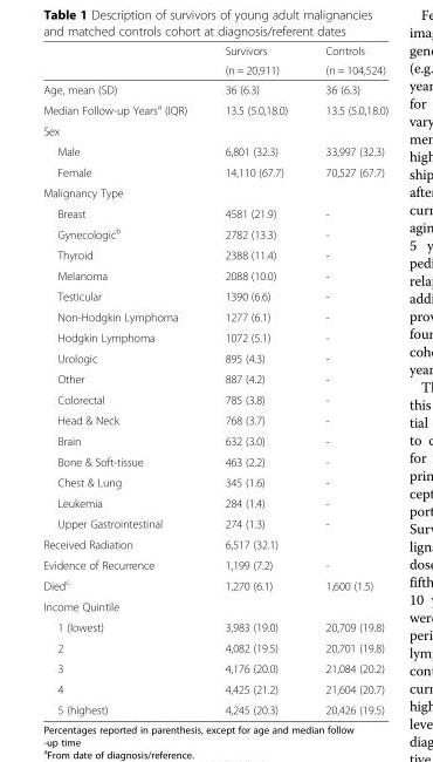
<table><thead><tr><td rowspan="2"></td><td rowspan="2">Survivors (n = 20,911)</td><td rowspan="2">Controls (n = 104,524)</td></tr><tr></tr></thead><tbody><tr><td>Age, mean (SD)</td><td>36 (6.3)</td><td>36 (6.3)</td></tr><tr><td>Median Follow-up Years<sup>a</sup> (IQR)</td><td>13.5 (5.0,18.0)</td><td>13.5 (5.0,18.0)</td></tr><tr><td colspan="3">Sex</td></tr><tr><td>Male</td><td>6,801 (32.3)</td><td>33,997 (32.3)</td></tr><tr><td>Female</td><td>14,110 (67.7)</td><td>70,527 (67.7)</td></tr><tr><td colspan="3">Malignancy Type</td></tr><tr><td>Breast</td><td>4581 (21.9)</td><td>-</td></tr><tr><td>Gynecologic<sup>b</sup></td><td>2782 (13.3)</td><td>-</td></tr><tr><td>Thyroid</td><td>2388 (11.4)</td><td>-</td></tr><tr><td>Melanoma</td><td>2088 (10.0)</td><td>-</td></tr><tr><td>Testicular</td><td>1390 (6.6)</td><td>-</td></tr><tr><td>Non-Hodgkin Lymphoma</td><td>1277 (6.1)</td><td>-</td></tr><tr><td>Hodgkin Lymphoma</td><td>1072 (5.1)</td><td>-</td></tr><tr><td>Urologic</td><td>895 (4.3)</td><td>-</td></tr><tr><td>Other</td><td>887 (4.2)</td><td>-</td></tr><tr><td>Colorectal</td><td>785 (3.8)</td><td>-</td></tr><tr><td>Head &amp; Neck</td><td>768 (3.7)</td><td>-</td></tr><tr><td>Brain</td><td>632 (3.0)</td><td>-</td></tr><tr><td>Bone &amp; Soft-tissue</td><td>463 (2.2)</td><td>-</td></tr><tr><td>Chest &amp; Lung</td><td>345 (1.6)</td><td>-</td></tr><tr><td>Leukemia</td><td>284 (1.4)</td><td>-</td></tr><tr><td>Upper Gastrointestinal</td><td>274 (1.3)</td><td>-</td></tr><tr><td>Received Radiation</td><td>6,517 (32.1)</td><td></td></tr><tr><td>Evidence of Recurrence</td><td>1,199 (7.2)</td><td>-</td></tr><tr><td>Died<sup>c</sup></td><td>1,270 (6.1)</td><td>1,600 (1.5)</td></tr><tr><td colspan="3">Income Quintile</td></tr><tr><td>1 (lowest)</td><td>3,983 (19.0)</td><td>20,709 (19.8)</td></tr><tr><td>2</td><td>4,082 (19.5)</td><td>20,701 (19.8)</td></tr><tr><td>3</td><td>4,176 (20.0)</td><td>21,084 (20.2)</td></tr><tr><td>4</td><td>4,425 (21.2)</td><td>21,604 (20.7)</td></tr><tr><td>5 (highest)</td><td>4,245 (20.3)</td><td>20,426 (19.5)</td></tr></tbody></table>